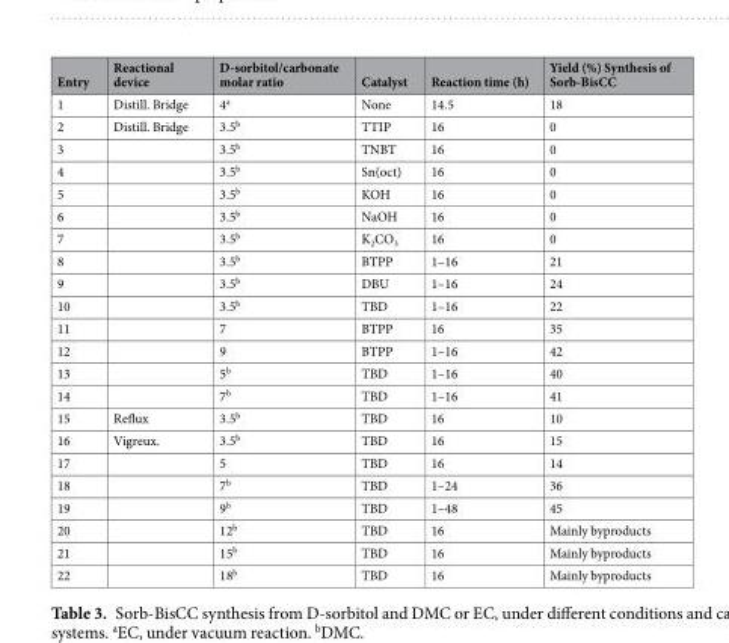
<table><thead><tr><td>Entry</td><td>Reactional device</td><td>D-sorbitol/carbonate molar ratio</td><td>Catalyst</td><td>Reaction time (h)</td><td>Yield (%) Synthesis of Sorb-BisCC</td></tr></thead><tbody><tr><td>1</td><td>Distill. Bridge</td><td>4<sup>a</sup></td><td>None</td><td>14.5</td><td>18</td></tr><tr><td>2</td><td>Distill. Bridge</td><td>3.5<sup>b</sup></td><td>TTIP</td><td>16</td><td>0</td></tr><tr><td>3</td><td></td><td>3.5<sup>b</sup></td><td>TNBT</td><td>16</td><td>0</td></tr><tr><td>4</td><td></td><td>3.5<sup>b</sup></td><td>Sn(oct)</td><td>16</td><td>0</td></tr><tr><td>5</td><td></td><td>3.5<sup>b</sup></td><td>KOH</td><td>16</td><td>0</td></tr><tr><td>6</td><td></td><td>3.5<sup>b</sup></td><td>NaOH</td><td>16</td><td>0</td></tr><tr><td>7</td><td></td><td>3.5<sup>b</sup></td><td>K<sub>2</sub>CO<sub>3</sub></td><td>16</td><td>0</td></tr><tr><td>8</td><td></td><td>3.5<sup>b</sup></td><td>BTPP</td><td>1–16</td><td>21</td></tr><tr><td>9</td><td></td><td>3.5<sup>b</sup></td><td>DBU</td><td>1–16</td><td>24</td></tr><tr><td>10</td><td></td><td>3.5<sup>b</sup></td><td>TBD</td><td>1–16</td><td>22</td></tr><tr><td>11</td><td></td><td>7</td><td>BTPP</td><td>16</td><td>35</td></tr><tr><td>12</td><td></td><td>9</td><td>BTPP</td><td>1–16</td><td>42</td></tr><tr><td>13</td><td></td><td>5<sup>b</sup></td><td>TBD</td><td>1–16</td><td>40</td></tr><tr><td>14</td><td></td><td>7<sup>b</sup></td><td>TBD</td><td>1–16</td><td>41</td></tr><tr><td>15</td><td>Reflux</td><td>3.5<sup>b</sup></td><td>TBD</td><td>16</td><td>10</td></tr><tr><td>16</td><td>Vigreux.</td><td>3.5<sup>b</sup></td><td>TBD</td><td>16</td><td>15</td></tr><tr><td>17</td><td></td><td>5</td><td>TBD</td><td>16</td><td>14</td></tr><tr><td>18</td><td></td><td>7<sup>b</sup></td><td>TBD</td><td>1–24</td><td>36</td></tr><tr><td>19</td><td></td><td>9<sup>b</sup></td><td>TBD</td><td>1–48</td><td>45</td></tr><tr><td>20</td><td></td><td>12<sup>b</sup></td><td>TBD</td><td>16</td><td>Mainly byproducts</td></tr><tr><td>21</td><td></td><td>15<sup>b</sup></td><td>TBD</td><td>16</td><td>Mainly byproducts</td></tr><tr><td>22</td><td></td><td>18<sup>b</sup></td><td>TBD</td><td>16</td><td>Mainly byproducts</td></tr></tbody></table>